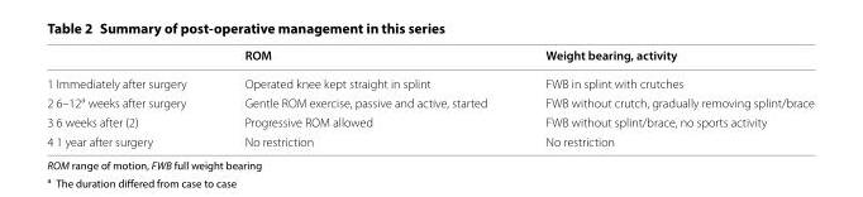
<table><thead><tr><td></td><td>ROM</td><td>Weight bearing, activity</td></tr></thead><tbody><tr><td>1 Immediately after surgery</td><td>Operated knee kept straight in splint</td><td>FWB in splint with crutches</td></tr><tr><td>2 6–12<sup>a</sup> weeks after surgery</td><td>Gentle ROM exercise, passive and active, started</td><td>FWB without crutch, gradually removing splint/brace</td></tr><tr><td>3 6 weeks after (2)</td><td>Progressive ROM allowed</td><td>FWB without splint/brace, no sports activity</td></tr><tr><td>4 1 year after surgery</td><td>No restriction</td><td>No restriction</td></tr></tbody></table>